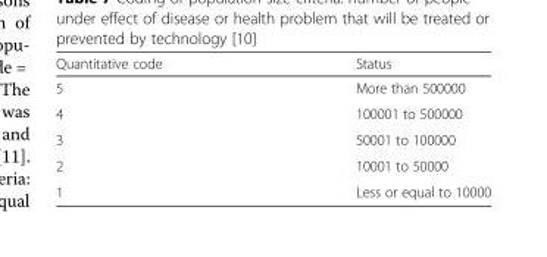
<table><thead><tr><td>Quantitative code</td><td>Status</td></tr></thead><tbody><tr><td>5</td><td>More than 500000</td></tr><tr><td>4</td><td>100001 to 500000</td></tr><tr><td>3</td><td>50001 to 100000</td></tr><tr><td>2</td><td>10001 to 50000</td></tr><tr><td>1</td><td>Less or equal to 10000</td></tr></tbody></table>